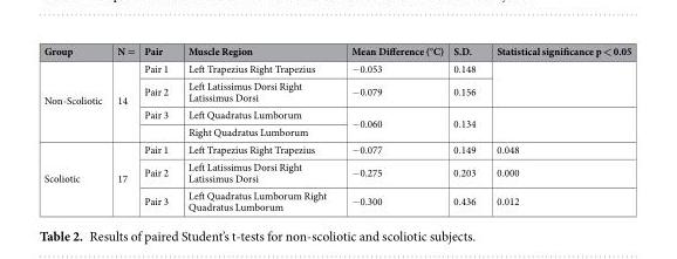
<table><thead><tr><td>Group</td><td>N =</td><td>Pair</td><td>Muscle Region</td><td>Mean Difference (°C)</td><td>S.D.</td><td>Statistical significance p &lt; 0.05</td></tr></thead><tbody><tr><td rowspan="4">Non-Scoliotic</td><td rowspan="4">14</td><td>Pair 1</td><td>Left Trapezius Right Trapezius</td><td>−0.053</td><td>0.148</td><td rowspan="2"></td></tr><tr><td>Pair 2</td><td>Left Latissimus Dorsi Right Latissimus Dorsi</td><td>−0.079</td><td>0.156</td></tr><tr><td>Pair 3</td><td>Left Quadratus Lumborum</td><td rowspan="2">−0.060</td><td rowspan="2">0.134</td><td rowspan="2"></td></tr><tr><td></td><td>Right Quadratus Lumborum</td></tr><tr><td rowspan="3">Scoliotic</td><td rowspan="3">17</td><td>Pair 1</td><td>Left Trapezius Right Trapezius</td><td>−0.077</td><td>0.149</td><td>0.048</td></tr><tr><td>Pair 2</td><td>Left Latissimus Dorsi Right Latissimus Dorsi</td><td>−0.275</td><td>0.203</td><td>0.000</td></tr><tr><td>Pair 3</td><td>Left Quadratus Lumborum Right Quadratus Lumborum</td><td>−0.300</td><td>0.436</td><td>0.012</td></tr></tbody></table>